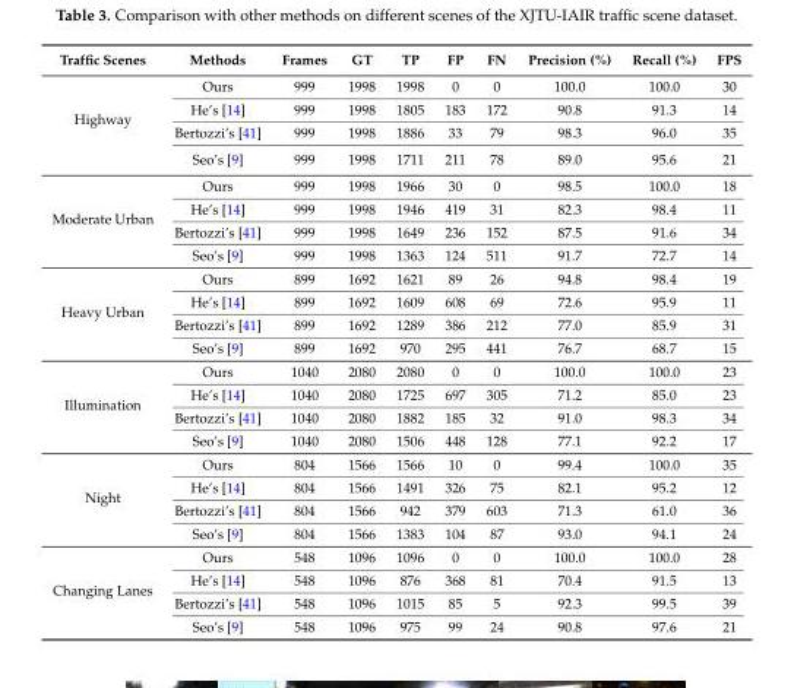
<table><thead><tr><td>Traffic Scenes</td><td>Methods</td><td>Frames</td><td>GT</td><td>TP</td><td>FP</td><td>FN</td><td>Precision (%)</td><td>Recall (%)</td><td>FPS</td></tr></thead><tbody><tr><td rowspan="4">Highway</td><td>Ours</td><td>999</td><td>1998</td><td>1998</td><td>0</td><td>0</td><td>100.0</td><td>100.0</td><td>30</td></tr><tr><td>He’s [14]</td><td>999</td><td>1998</td><td>1805</td><td>183</td><td>172</td><td>90.8</td><td>91.3</td><td>14</td></tr><tr><td>Bertozzi’s [41]</td><td>999</td><td>1998</td><td>1886</td><td>33</td><td>79</td><td>98.3</td><td>96.0</td><td>35</td></tr><tr><td>Seo’s [9]</td><td>999</td><td>1998</td><td>1711</td><td>211</td><td>78</td><td>89.0</td><td>95.6</td><td>21</td></tr><tr><td rowspan="4">Moderate Urban</td><td>Ours</td><td>999</td><td>1998</td><td>1966</td><td>30</td><td>0</td><td>98.5</td><td>100.0</td><td>18</td></tr><tr><td>He’s [14]</td><td>999</td><td>1998</td><td>1946</td><td>419</td><td>31</td><td>82.3</td><td>98.4</td><td>11</td></tr><tr><td>Bertozzi’s [41]</td><td>999</td><td>1998</td><td>1649</td><td>236</td><td>152</td><td>87.5</td><td>91.6</td><td>34</td></tr><tr><td>Seo’s [9]</td><td>999</td><td>1998</td><td>1363</td><td>124</td><td>511</td><td>91.7</td><td>72.7</td><td>14</td></tr><tr><td rowspan="4">Heavy Urban</td><td>Ours</td><td>899</td><td>1692</td><td>1621</td><td>89</td><td>26</td><td>94.8</td><td>98.4</td><td>19</td></tr><tr><td>He’s [14]</td><td>899</td><td>1692</td><td>1609</td><td>608</td><td>69</td><td>72.6</td><td>95.9</td><td>11</td></tr><tr><td>Bertozzi’s [41]</td><td>899</td><td>1692</td><td>1289</td><td>386</td><td>212</td><td>77.0</td><td>85.9</td><td>31</td></tr><tr><td>Seo’s [9]</td><td>899</td><td>1692</td><td>970</td><td>295</td><td>441</td><td>76.7</td><td>68.7</td><td>15</td></tr><tr><td rowspan="4">Illumination</td><td>Ours</td><td>1040</td><td>2080</td><td>2080</td><td>0</td><td>0</td><td>100.0</td><td>100.0</td><td>23</td></tr><tr><td>He’s [14]</td><td>1040</td><td>2080</td><td>1725</td><td>697</td><td>305</td><td>71.2</td><td>85.0</td><td>23</td></tr><tr><td>Bertozzi’s [41]</td><td>1040</td><td>2080</td><td>1882</td><td>185</td><td>32</td><td>91.0</td><td>98.3</td><td>34</td></tr><tr><td>Seo’s [9]</td><td>1040</td><td>2080</td><td>1506</td><td>448</td><td>128</td><td>77.1</td><td>92.2</td><td>17</td></tr><tr><td rowspan="4">Night</td><td>Ours</td><td>804</td><td>1566</td><td>1566</td><td>10</td><td>0</td><td>99.4</td><td>100.0</td><td>35</td></tr><tr><td>He’s [14]</td><td>804</td><td>1566</td><td>1491</td><td>326</td><td>75</td><td>82.1</td><td>95.2</td><td>12</td></tr><tr><td>Bertozzi’s [41]</td><td>804</td><td>1566</td><td>942</td><td>379</td><td>603</td><td>71.3</td><td>61.0</td><td>36</td></tr><tr><td>Seo’s [9]</td><td>804</td><td>1566</td><td>1383</td><td>104</td><td>87</td><td>93.0</td><td>94.1</td><td>24</td></tr><tr><td rowspan="4">Changing Lanes</td><td>Ours</td><td>548</td><td>1096</td><td>1096</td><td>0</td><td>0</td><td>100.0</td><td>100.0</td><td>28</td></tr><tr><td>He’s [14]</td><td>548</td><td>1096</td><td>876</td><td>368</td><td>81</td><td>70.4</td><td>91.5</td><td>13</td></tr><tr><td>Bertozzi’s [41]</td><td>548</td><td>1096</td><td>1015</td><td>85</td><td>5</td><td>92.3</td><td>99.5</td><td>39</td></tr><tr><td>Seo’s [9]</td><td>548</td><td>1096</td><td>975</td><td>99</td><td>24</td><td>90.8</td><td>97.6</td><td>21</td></tr></tbody></table>